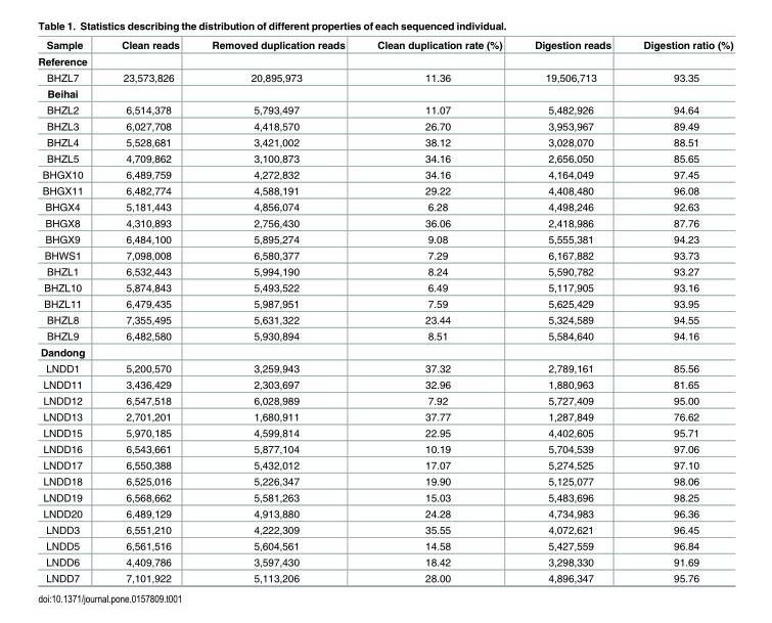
<table><thead><tr><td>Sample</td><td>Clean reads</td><td>Removed duplication reads</td><td>Clean duplication rate (%)</td><td>Digestion reads</td><td>Digestion ratio (%)</td></tr></thead><tbody><tr><td colspan="6">Reference</td></tr><tr><td>BHZL7</td><td>23,573,826</td><td>20,895,973</td><td>11.36</td><td>19,506,713</td><td>93.35</td></tr><tr><td colspan="6">Beihai</td></tr><tr><td>BHZL2</td><td>6,514,378</td><td>5,793,497</td><td>11.07</td><td>5,482,926</td><td>94.64</td></tr><tr><td>BHZL3</td><td>6,027,708</td><td>4,418,570</td><td>26.70</td><td>3,953,967</td><td>89.49</td></tr><tr><td>BHZL4</td><td>5,528,681</td><td>3,421,002</td><td>38.12</td><td>3,028,070</td><td>88.51</td></tr><tr><td>BHZL5</td><td>4,709,862</td><td>3,100,873</td><td>34.16</td><td>2,656,050</td><td>85.65</td></tr><tr><td>BHGX10</td><td>6,489,759</td><td>4,272,832</td><td>34.16</td><td>4,164,049</td><td>97.45</td></tr><tr><td>BHGX11</td><td>6,482,774</td><td>4,588,191</td><td>29.22</td><td>4,408,480</td><td>96.08</td></tr><tr><td>BHGX4</td><td>5,181,443</td><td>4,856,074</td><td>6.28</td><td>4,498,246</td><td>92.63</td></tr><tr><td>BHGX8</td><td>4,310,893</td><td>2,756,430</td><td>36.06</td><td>2,418,986</td><td>87.76</td></tr><tr><td>BHGX9</td><td>6,484,100</td><td>5,895,274</td><td>9.08</td><td>5,555,381</td><td>94.23</td></tr><tr><td>BHWS1</td><td>7,098,008</td><td>6,580,377</td><td>7.29</td><td>6,167,882</td><td>93.73</td></tr><tr><td>BHZL1</td><td>6,532,443</td><td>5,994,190</td><td>8.24</td><td>5,590,782</td><td>93.27</td></tr><tr><td>BHZL10</td><td>5,874,843</td><td>5,493,522</td><td>6.49</td><td>5,117,905</td><td>93.16</td></tr><tr><td>BHZL11</td><td>6,479,435</td><td>5,987,951</td><td>7.59</td><td>5,625,429</td><td>93.95</td></tr><tr><td>BHZL8</td><td>7,355,495</td><td>5,631,322</td><td>23.44</td><td>5,324,589</td><td>94.55</td></tr><tr><td>BHZL9</td><td>6,482,580</td><td>5,930,894</td><td>8.51</td><td>5,584,640</td><td>94.16</td></tr><tr><td colspan="6">Dandong</td></tr><tr><td>LNDD1</td><td>5,200,570</td><td>3,259,943</td><td>37.32</td><td>2,789,161</td><td>85.56</td></tr><tr><td>LNDD11</td><td>3,436,429</td><td>2,303,697</td><td>32.96</td><td>1,880,963</td><td>81.65</td></tr><tr><td>LNDD12</td><td>6,547,518</td><td>6,028,989</td><td>7.92</td><td>5,727,409</td><td>95.00</td></tr><tr><td>LNDD13</td><td>2,701,201</td><td>1,680,911</td><td>37.77</td><td>1,287,849</td><td>76.62</td></tr><tr><td>LNDD15</td><td>5,970,185</td><td>4,599,814</td><td>22.95</td><td>4,402,605</td><td>95.71</td></tr><tr><td>LNDD16</td><td>6,543,661</td><td>5,877,104</td><td>10.19</td><td>5,704,539</td><td>97.06</td></tr><tr><td>LNDD17</td><td>6,550,388</td><td>5,432,012</td><td>17.07</td><td>5,274,525</td><td>97.10</td></tr><tr><td>LNDD18</td><td>6,525,016</td><td>5,226,347</td><td>19.90</td><td>5,125,077</td><td>98.06</td></tr><tr><td>LNDD19</td><td>6,568,662</td><td>5,581,263</td><td>15.03</td><td>5,483,696</td><td>98.25</td></tr><tr><td>LNDD20</td><td>6,489,129</td><td>4,913,880</td><td>24.28</td><td>4,734,983</td><td>96.36</td></tr><tr><td>LNDD3</td><td>6,551,210</td><td>4,222,309</td><td>35.55</td><td>4,072,621</td><td>96.45</td></tr><tr><td>LNDD5</td><td>6,561,516</td><td>5,604,561</td><td>14.58</td><td>5,427,559</td><td>96.84</td></tr><tr><td>LNDD6</td><td>4,409,786</td><td>3,597,430</td><td>18.42</td><td>3,298,330</td><td>91.69</td></tr><tr><td>LNDD7</td><td>7,101,922</td><td>5,113,206</td><td>28.00</td><td>4,896,347</td><td>95.76</td></tr></tbody></table>